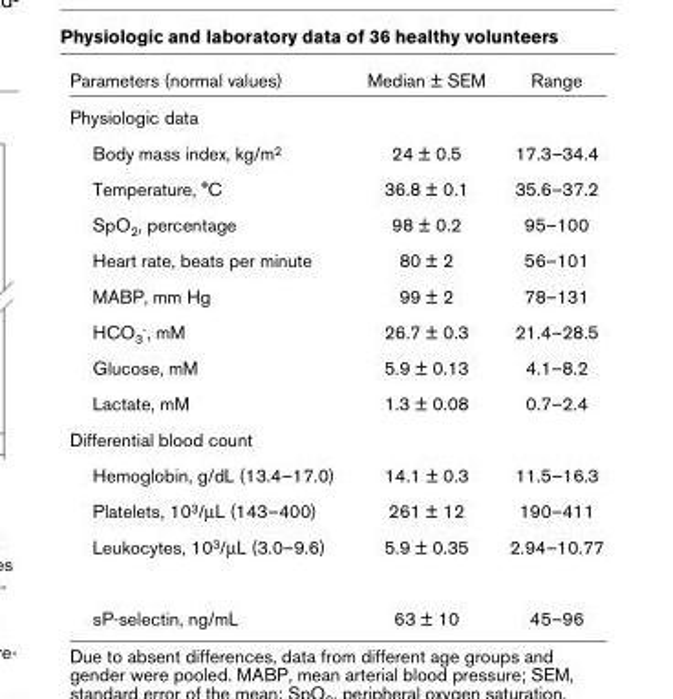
<table><thead><tr><td>Parameters (normal values)</td><td>Median ± SEM</td><td>Range</td></tr></thead><tbody><tr><td colspan="3">Physiologic data</td></tr><tr><td>Body mass index, kg/m<sup>2</sup></td><td>24 ± 0.5</td><td>17.3–34.4</td></tr><tr><td>Temperature, °C</td><td>36.8 ± 0.1</td><td>35.6–37.2</td></tr><tr><td>SpO<sub>2</sub>, percentage</td><td>98 ± 0.2</td><td>95–100</td></tr><tr><td>Heart rate, beats per minute</td><td>80 ± 2</td><td>56–101</td></tr><tr><td>MABP, mm Hg</td><td>99 ± 2</td><td>78–131</td></tr><tr><td>HCO<sub>3</sub><sup>-</sup>, mM</td><td>26.7 ± 0.3</td><td>21.4–28.5</td></tr><tr><td>Glucose, mM</td><td>5.9 ± 0.13</td><td>4.1–8.2</td></tr><tr><td>Lactate, mM</td><td>1.3 ± 0.08</td><td>0.7–2.4</td></tr><tr><td colspan="3">Differential blood count</td></tr><tr><td>Hemoglobin, g/dL (13.4–17.0)</td><td>14.1 ± 0.3</td><td>11.5–16.3</td></tr><tr><td>Platelets, 10<sup>3</sup>/μL (143–400)</td><td>261 ± 12</td><td>190–411</td></tr><tr><td>Leukocytes, 10<sup>3</sup>/μL (3.0–9.6)</td><td>5.9 ± 0.35</td><td>2.94–10.77</td></tr><tr><td>sP-selectin, ng/mL</td><td>63 ± 10</td><td>45–96</td></tr></tbody></table>